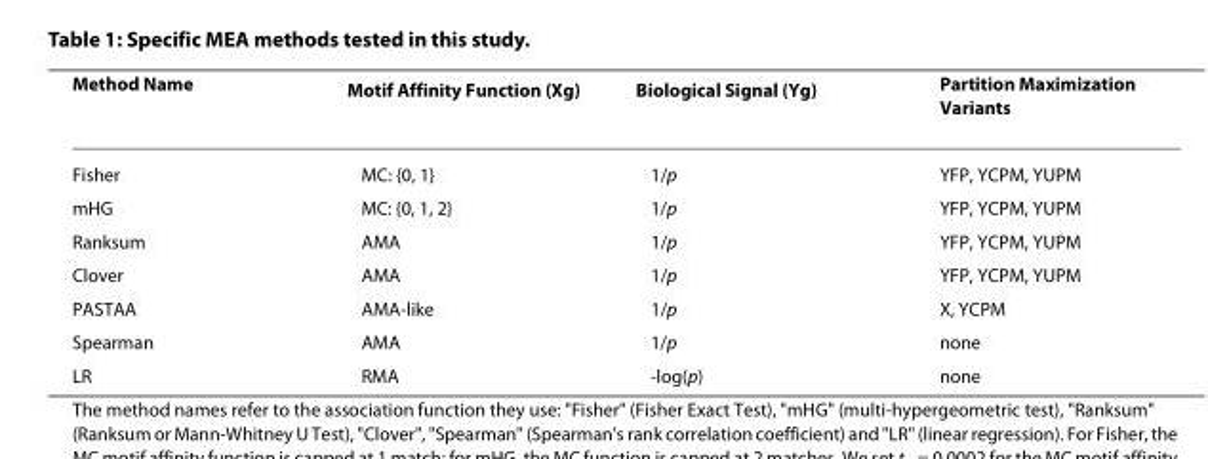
<table><thead><tr><td>Method Name</td><td>Motif Affinity Function (X<sub>g</sub>)</td><td>Biological Signal (Y<sub>g</sub>)</td><td>Partition Maximization Variants</td></tr></thead><tbody><tr><td>Fisher</td><td>MC: {0, 1}</td><td>1/p</td><td>YFP, YCPM, YUPM</td></tr><tr><td>mHG</td><td>MC: {0, 1, 2}</td><td>1/p</td><td>YFP, YCPM, YUPM</td></tr><tr><td>Ranksum</td><td>AMA</td><td>1/p</td><td>YFP, YCPM, YUPM</td></tr><tr><td>Clover</td><td>AMA</td><td>1/p</td><td>YFP, YCPM, YUPM</td></tr><tr><td>PASTAA</td><td>AMA-like</td><td>1/p</td><td>X, YCPM</td></tr><tr><td>Spearman</td><td>AMA</td><td>1/p</td><td>none</td></tr><tr><td>LR</td><td>RMA</td><td>-log(p)</td><td>none</td></tr></tbody></table>